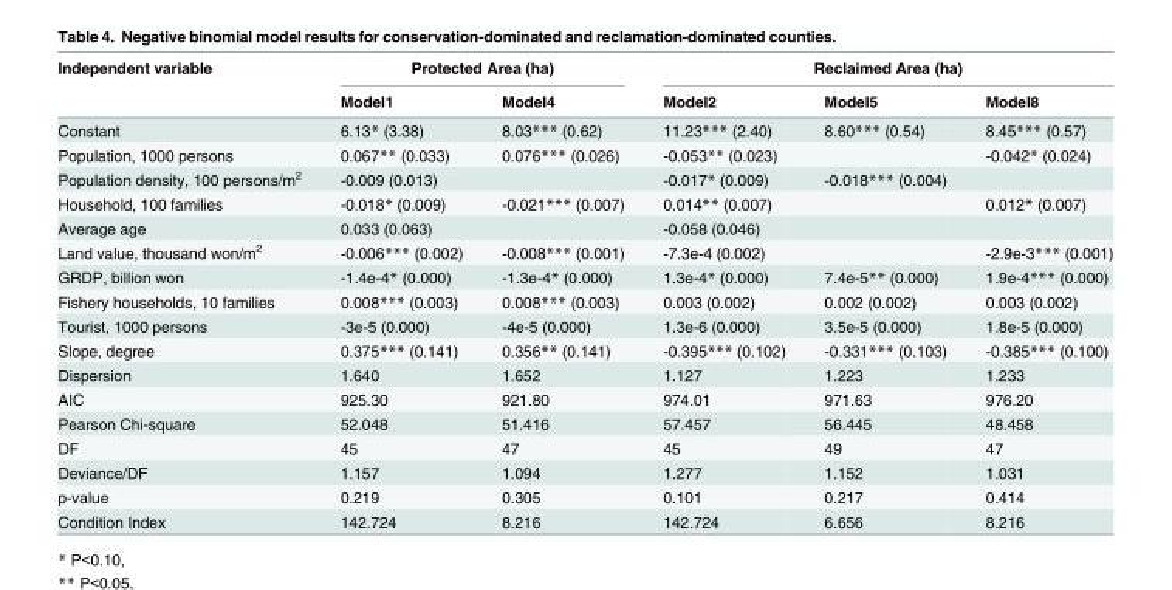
<table><thead><tr><td rowspan="2">Independent variable</td><td colspan="2">Protected Area (ha)</td><td colspan="3">Reclaimed Area (ha)</td></tr><tr><td>Model1</td><td>Model4</td><td>Model2</td><td>Model5</td><td>Model8</td></tr></thead><tbody><tr><td>Constant</td><td>6.13* (3.38)</td><td>8.03*** (0.62)</td><td>11.23*** (2.40)</td><td>8.60*** (0.54)</td><td>8.45*** (0.57)</td></tr><tr><td>Population, 1000 persons</td><td>0.067** (0.033)</td><td>0.076*** (0.026)</td><td>-0.053** (0.023)</td><td></td><td>-0.042* (0.024)</td></tr><tr><td>Population density, 100 persons/m<sup>2</sup></td><td>-0.009 (0.013)</td><td></td><td>-0.017* (0.009)</td><td>-0.018*** (0.004)</td><td></td></tr><tr><td>Household, 100 families</td><td>-0.018* (0.009)</td><td>-0.021*** (0.007)</td><td>0.014** (0.007)</td><td></td><td>0.012* (0.007)</td></tr><tr><td>Average age</td><td>0.033 (0.063)</td><td></td><td>-0.058 (0.046)</td><td></td><td></td></tr><tr><td>Land value, thousand won/m<sup>2</sup></td><td>-0.006*** (0.002)</td><td>-0.008*** (0.001)</td><td>-7.3e-4 (0.002)</td><td></td><td>-2.9e-3*** (0.001)</td></tr><tr><td>GRDP, billion won</td><td>-1.4e-4* (0.000)</td><td>-1.3e-4* (0.000)</td><td>1.3e-4* (0.000)</td><td>7.4e-5** (0.000)</td><td>1.9e-4*** (0.000)</td></tr><tr><td>Fishery households, 10 families</td><td>0.008*** (0.003)</td><td>0.008*** (0.003)</td><td>0.003 (0.002)</td><td>0.002 (0.002)</td><td>0.003 (0.002)</td></tr><tr><td>Tourist, 1000 persons</td><td>-3e-5 (0.000)</td><td>-4e-5 (0.000)</td><td>1.3e-6 (0.000)</td><td>3.5e-5 (0.000)</td><td>1.8e-5 (0.000)</td></tr><tr><td>Slope, degree</td><td>0.375*** (0.141)</td><td>0.356** (0.141)</td><td>-0.395*** (0.102)</td><td>-0.331*** (0.103)</td><td>-0.385*** (0.100)</td></tr><tr><td>Dispersion</td><td>1.640</td><td>1.652</td><td>1.127</td><td>1.223</td><td>1.233</td></tr><tr><td>AIC</td><td>925.30</td><td>921.80</td><td>974.01</td><td>971.63</td><td>976.20</td></tr><tr><td>Pearson Chi-square</td><td>52.048</td><td>51.416</td><td>57.457</td><td>56.445</td><td>48.458</td></tr><tr><td>DF</td><td>45</td><td>47</td><td>45</td><td>49</td><td>47</td></tr><tr><td>Deviance/DF</td><td>1.157</td><td>1.094</td><td>1.277</td><td>1.152</td><td>1.031</td></tr><tr><td>p-value</td><td>0.219</td><td>0.305</td><td>0.101</td><td>0.217</td><td>0.414</td></tr><tr><td>Condition Index</td><td>142.724</td><td>8.216</td><td>142.724</td><td>6.656</td><td>8.216</td></tr></tbody></table>